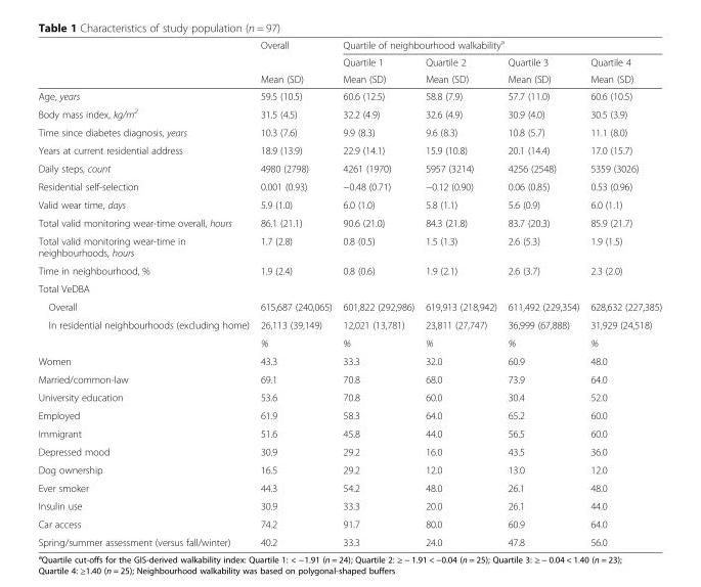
<table><thead><tr><td rowspan="3"></td><td rowspan="3">Overall Mean (SD)</td><td colspan="4">Quartile of neighbourhood walkability<sup>a</sup></td></tr><tr><td rowspan="2">Quartile 1 Mean (SD)</td><td rowspan="2">Quartile 2 Mean (SD)</td><td rowspan="2">Quartile 3 Mean (SD)</td><td rowspan="2">Quartile 4 Mean (SD)</td></tr><tr></tr></thead><tbody><tr><td>Age, years</td><td>59.5 (10.5)</td><td>60.6 (12.5)</td><td>58.8 (7.9)</td><td>57.7 (11.0)</td><td>60.6 (10.5)</td></tr><tr><td>Body mass index, kg/m<sup>2</sup></td><td>31.5 (4.5)</td><td>32.2 (4.9)</td><td>32.6 (4.9)</td><td>30.9 (4.0)</td><td>30.5 (3.9)</td></tr><tr><td>Time since diabetes diagnosis, years</td><td>10.3 (7.6)</td><td>9.9 (8.3)</td><td>9.6 (8.3)</td><td>10.8 (5.7)</td><td>11.1 (8.0)</td></tr><tr><td>Years at current residential address</td><td>18.9 (13.9)</td><td>22.9 (14.1)</td><td>15.9 (10.8)</td><td>20.1 (14.4)</td><td>17.0 (15.7)</td></tr><tr><td>Daily steps, count</td><td>4980 (2798)</td><td>4261 (1970)</td><td>5957 (3214)</td><td>4256 (2548)</td><td>5359 (3026)</td></tr><tr><td>Residential self-selection</td><td>0.001 (0.93)</td><td>−0.48 (0.71)</td><td>−0.12 (0.90)</td><td>0.06 (0.85)</td><td>0.53 (0.96)</td></tr><tr><td>Valid wear time, days</td><td>5.9 (1.0)</td><td>6.0 (1.0)</td><td>5.8 (1.1)</td><td>5.6 (0.9)</td><td>6.0 (1.1)</td></tr><tr><td>Total valid monitoring wear-time overall, hours</td><td>86.1 (21.1)</td><td>90.6 (21.0)</td><td>84.3 (21.8)</td><td>83.7 (20.3)</td><td>85.9 (21.7)</td></tr><tr><td>Total valid monitoring wear-time in neighbourhoods, hours</td><td>1.7 (2.8)</td><td>0.8 (0.5)</td><td>1.5 (1.3)</td><td>2.6 (5.3)</td><td>1.9 (1.5)</td></tr><tr><td>Time in neighbourhood, %</td><td>1.9 (2.4)</td><td>0.8 (0.6)</td><td>1.9 (2.1)</td><td>2.6 (3.7)</td><td>2.3 (2.0)</td></tr><tr><td colspan="6">Total VeDBA</td></tr><tr><td>Overall</td><td>615,687 (240,065)</td><td>601,822 (292,986)</td><td>619,913 (218,942)</td><td>611,492 (229,354)</td><td>628,632 (227,385)</td></tr><tr><td rowspan="2">In residential neighbourhoods (excluding home)</td><td>26,113 (39,149)</td><td>12,021 (13,781)</td><td>23,811 (27,747)</td><td>36,999 (67,888)</td><td>31,929 (24,518)</td></tr><tr><td>%</td><td>%</td><td>%</td><td>%</td><td>%</td></tr><tr><td>Women</td><td>43.3</td><td>33.3</td><td>32.0</td><td>60.9</td><td>48.0</td></tr><tr><td>Married/common-law</td><td>69.1</td><td>70.8</td><td>68.0</td><td>73.9</td><td>64.0</td></tr><tr><td>University education</td><td>53.6</td><td>70.8</td><td>60.0</td><td>30.4</td><td>52.0</td></tr><tr><td>Employed</td><td>61.9</td><td>58.3</td><td>64.0</td><td>65.2</td><td>60.0</td></tr><tr><td>Immigrant</td><td>51.6</td><td>45.8</td><td>44.0</td><td>56.5</td><td>60.0</td></tr><tr><td>Depressed mood</td><td>30.9</td><td>29.2</td><td>16.0</td><td>43.5</td><td>36.0</td></tr><tr><td>Dog ownership</td><td>16.5</td><td>29.2</td><td>12.0</td><td>13.0</td><td>12.0</td></tr><tr><td>Ever smoker</td><td>44.3</td><td>54.2</td><td>48.0</td><td>26.1</td><td>48.0</td></tr><tr><td>Insulin use</td><td>30.9</td><td>33.3</td><td>20.0</td><td>26.1</td><td>44.0</td></tr><tr><td>Car access</td><td>74.2</td><td>91.7</td><td>80.0</td><td>60.9</td><td>64.0</td></tr><tr><td>Spring/summer assessment (versus fall/winter)</td><td>40.2</td><td>33.3</td><td>24.0</td><td>47.8</td><td>56.0</td></tr></tbody></table>